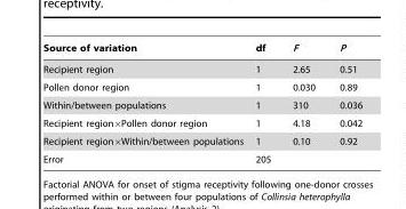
<table><thead><tr><td>Source of variation</td><td>df</td><td>F</td><td>P</td></tr></thead><tbody><tr><td>Recipient region</td><td>1</td><td>2.65</td><td>0.51</td></tr><tr><td>Pollen donor region</td><td>1</td><td>0.030</td><td>0.89</td></tr><tr><td>Within/between populations</td><td>1</td><td>310</td><td>0.036</td></tr><tr><td>Recipient region×Pollen donor region</td><td>1</td><td>4.18</td><td>0.042</td></tr><tr><td>Recipient region×Within/between populations</td><td>1</td><td>0.10</td><td>0.92</td></tr><tr><td>Error</td><td>205</td><td></td><td></td></tr></tbody></table>